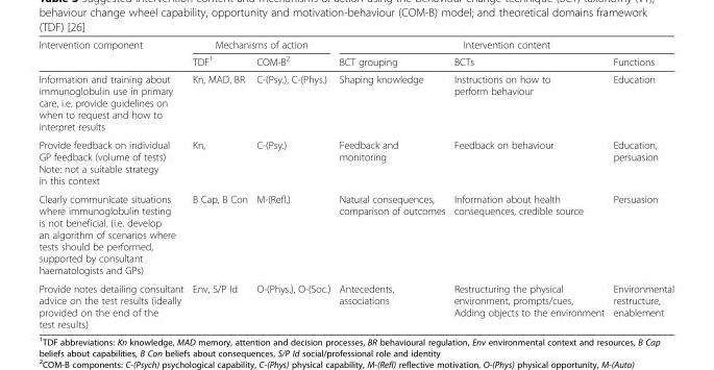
<table><thead><tr><td rowspan="2">Intervention component</td><td colspan="2">Mechanisms of action</td><td colspan="3">Intervention content</td></tr><tr><td>TDF<sup>1</sup></td><td>COM-B<sup>2</sup></td><td>BCT grouping</td><td>BCTs</td><td>Functions</td></tr></thead><tbody><tr><td>Information and training about immunoglobulin use in primary care, i.e. provide guidelines on when to request and how to interpret results</td><td>Kn, MAD, BR</td><td>C-(Psy.), C-(Phys.)</td><td>Shaping knowledge</td><td>Instructions on how to perform behaviour</td><td>Education</td></tr><tr><td>Provide feedback on individual GP feedback (volume of tests) Note: not a suitable strategy in this context</td><td>Kn,</td><td>C-(Psy.)</td><td>Feedback and monitoring</td><td>Feedback on behaviour</td><td>Education, persuasion</td></tr><tr><td>Clearly communicate situations where immunoglobulin testing is not beneficial. (i.e. develop an algorithm of scenarios where tests should be performed, supported by consultant haematologists and GPs)</td><td>B Cap, B Con</td><td>M-(Refl.)</td><td>Natural consequences, comparison of outcomes</td><td>Information about health consequences, credible source</td><td>Persuasion</td></tr><tr><td>Provide notes detailing consultant advice on the test results (ideally provided on the end of the test results)</td><td>Env, S/P Id</td><td>O-(Phys.), O-(Soc.)</td><td>Antecedents, associations</td><td>Restructuring the physical environment, prompts/cues, Adding objects to the environment</td><td>Environmental restructure, enablement</td></tr></tbody></table>